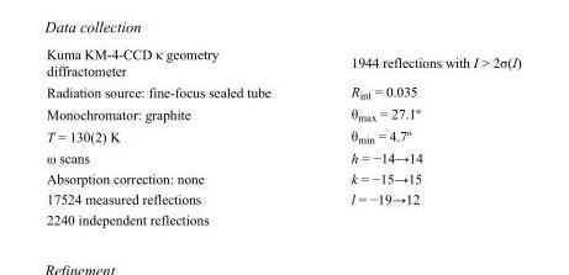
<table><tbody><tr><td>Kuma KM-4-CCD κ geometry diffractometer</td><td>1944 reflections with I &gt; 2σ(I)</td></tr><tr><td>Radiation source: fine-focus sealed tube</td><td>R<sub>int</sub> = 0.035</td></tr><tr><td>Monochromator: graphite</td><td>θ<sub>max</sub> = 27.1º</td></tr><tr><td>T = 130(2) K</td><td>θ<sub>min</sub> = 4.7º</td></tr><tr><td>ω scans</td><td>h = −14→14</td></tr><tr><td>Absorption correction: none</td><td>k = −15→15</td></tr><tr><td>17524 measured reflections</td><td>l = −19→12</td></tr><tr><td>2240 independent reflections</td><td></td></tr></tbody></table>